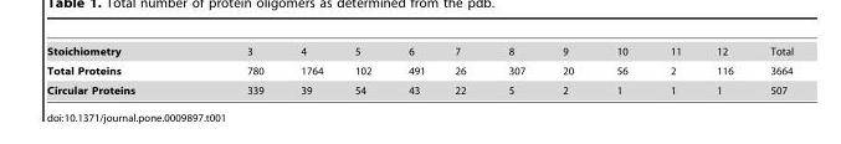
<table><tbody><tr><td>Stoichiometry</td><td>3</td><td>4</td><td>5</td><td>6</td><td>7</td><td>8</td><td>9</td><td>10</td><td>11</td><td>12</td><td>Total</td></tr><tr><td>Total Proteins</td><td>780</td><td>1764</td><td>102</td><td>491</td><td>26</td><td>307</td><td>20</td><td>56</td><td>2</td><td>116</td><td>3664</td></tr><tr><td>Circular Proteins</td><td>339</td><td>39</td><td>54</td><td>43</td><td>22</td><td>5</td><td>2</td><td>1</td><td>1</td><td>1</td><td>507</td></tr></tbody></table>